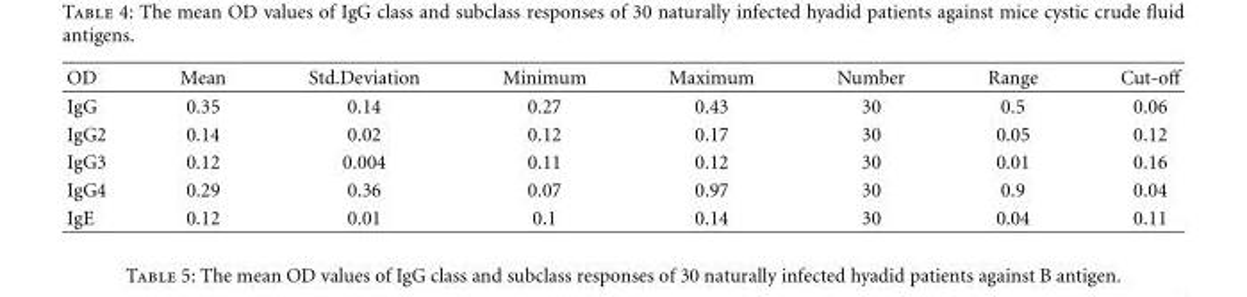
<table><thead><tr><td>OD</td><td>Mean</td><td>Std.Deviation</td><td>Minimum</td><td>Maximum</td><td>Number</td><td>Range</td><td>Cut-off</td></tr></thead><tbody><tr><td>IgG</td><td>0.35</td><td>0.14</td><td>0.27</td><td>0.43</td><td>30</td><td>0.5</td><td>0.06</td></tr><tr><td>IgG2</td><td>0.14</td><td>0.02</td><td>0.12</td><td>0.17</td><td>30</td><td>0.05</td><td>0.12</td></tr><tr><td>IgG3</td><td>0.12</td><td>0.004</td><td>0.11</td><td>0.12</td><td>30</td><td>0.01</td><td>0.16</td></tr><tr><td>IgG4</td><td>0.29</td><td>0.36</td><td>0.07</td><td>0.97</td><td>30</td><td>0.9</td><td>0.04</td></tr><tr><td>IgE</td><td>0.12</td><td>0.01</td><td>0.1</td><td>0.14</td><td>30</td><td>0.04</td><td>0.11</td></tr></tbody></table>